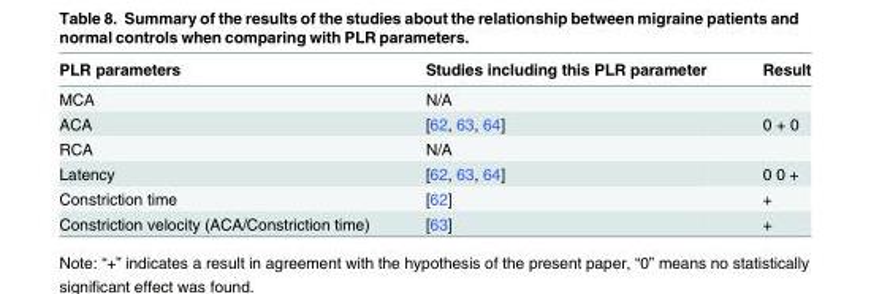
<table><thead><tr><td>PLR parameters</td><td>Studies including this PLR parameter</td><td>Result</td></tr></thead><tbody><tr><td>MCA</td><td>N/A</td><td></td></tr><tr><td>ACA</td><td>[62, 63, 64]</td><td>0 + 0</td></tr><tr><td>RCA</td><td>N/A</td><td></td></tr><tr><td>Latency</td><td>[62, 63, 64]</td><td>0 0 +</td></tr><tr><td>Constriction time</td><td>[62]</td><td>+</td></tr><tr><td>Constriction velocity (ACA/Constriction time)</td><td>[63]</td><td>+</td></tr></tbody></table>